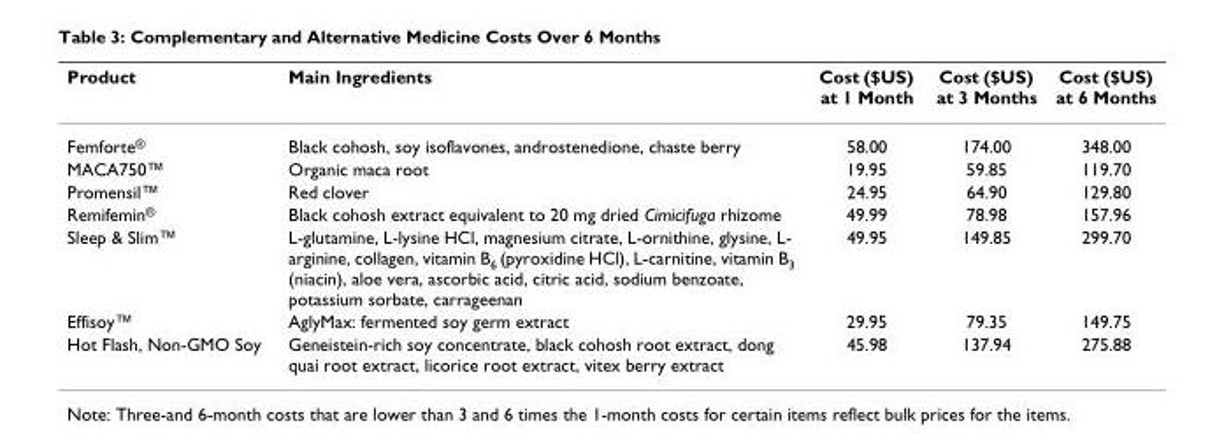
<table><thead><tr><td>Product</td><td>Main Ingredients</td><td>Cost ($US) at 1 Month</td><td>Cost ($US) at 3 Months</td><td>Cost ($US) at 6 Months</td></tr></thead><tbody><tr><td>Femforte<sup>®</sup></td><td>Black cohosh, soy isoflavones, androstenedione, chaste berry</td><td>58.00</td><td>174.00</td><td>348.00</td></tr><tr><td>MACA750™</td><td>Organic maca root</td><td>19.95</td><td>59.85</td><td>119.70</td></tr><tr><td>Promensil™</td><td>Red clover</td><td>24.95</td><td>64.90</td><td>129.80</td></tr><tr><td>Remifemin<sup>®</sup></td><td>Black cohosh extract equivalent to 20 mg dried Cimicifuga rhizome</td><td>49.99</td><td>78.98</td><td>157.96</td></tr><tr><td>Sleep &amp; Slim™</td><td>L-glutamine, L-lysine HCl, magnesium citrate, L-ornithine, glysine, L- arginine, collagen, vitamin B<sub>6</sub> (pyroxidine HCl), L-carnitine, vitamin B<sub>3</sub> (niacin), aloe vera, ascorbic acid, citric acid, sodium benzoate, potassium sorbate, carrageenan</td><td>49.95</td><td>149.85</td><td>299.70</td></tr><tr><td>Effisoy™</td><td>AglyMax: fermented soy germ extract</td><td>29.95</td><td>79.35</td><td>149.75</td></tr><tr><td>Hot Flash, Non-GMO Soy</td><td>Geneistein-rich soy concentrate, black cohosh root extract, dong quai root extract, licorice root extract, vitex berry extract</td><td>45.98</td><td>137.94</td><td>275.88</td></tr></tbody></table>